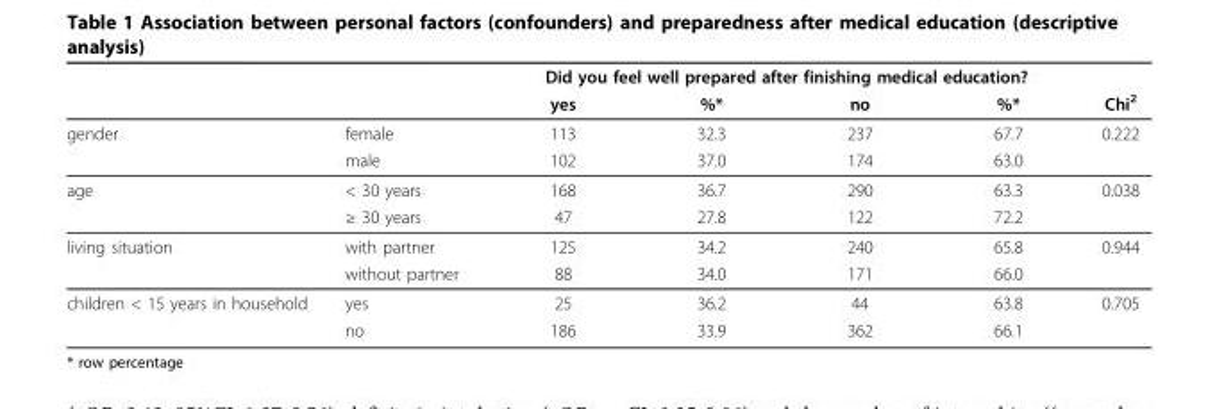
<table><thead><tr><td rowspan="2"></td><td rowspan="2"></td><td colspan="4">Did you feel well prepared after finishing medical education?</td><td rowspan="2">Chi<sup>2</sup></td></tr><tr><td>yes</td><td>%*</td><td>no</td><td>%*</td></tr></thead><tbody><tr><td rowspan="2">gender</td><td>female</td><td>113</td><td>32.3</td><td>237</td><td>67.7</td><td>0.222</td></tr><tr><td>male</td><td>102</td><td>37.0</td><td>174</td><td>63.0</td><td></td></tr><tr><td rowspan="2">age</td><td>&lt; 30 years</td><td>168</td><td>36.7</td><td>290</td><td>63.3</td><td>0.038</td></tr><tr><td>≥ 30 years</td><td>47</td><td>27.8</td><td>122</td><td>72.2</td><td></td></tr><tr><td rowspan="2">living situation</td><td>with partner</td><td>125</td><td>34.2</td><td>240</td><td>65.8</td><td>0.944</td></tr><tr><td>without partner</td><td>88</td><td>34.0</td><td>171</td><td>66.0</td><td></td></tr><tr><td rowspan="2">children &lt; 15 years in household</td><td>yes</td><td>25</td><td>36.2</td><td>44</td><td>63.8</td><td>0.705</td></tr><tr><td>no</td><td>186</td><td>33.9</td><td>362</td><td>66.1</td><td></td></tr></tbody></table>